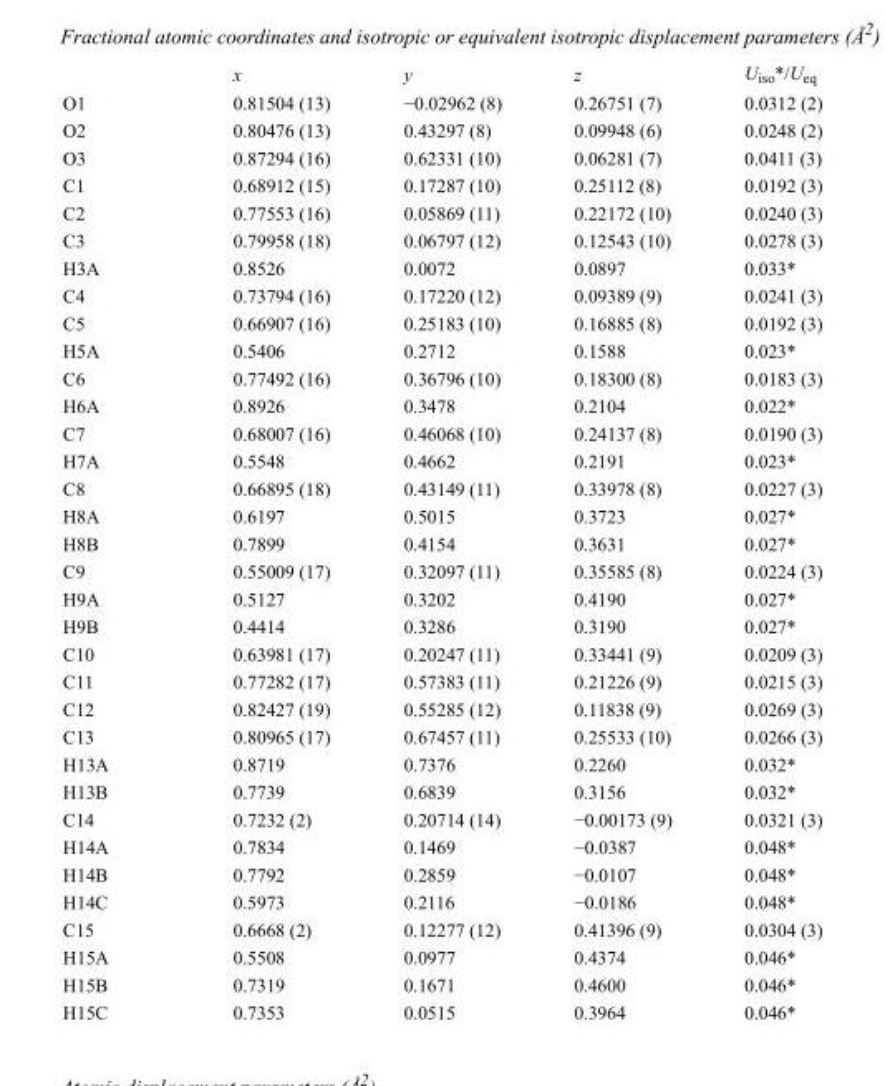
<table><thead><tr><td></td><td>x</td><td>y</td><td>z</td><td>U<sub>iso</sub>*/U<sub>eq</sub></td></tr></thead><tbody><tr><td>O1</td><td>0.81504 (13)</td><td>−0.02962 (8)</td><td>0.26751 (7)</td><td>0.0312 (2)</td></tr><tr><td>O2</td><td>0.80476 (13)</td><td>0.43297 (8)</td><td>0.09948 (6)</td><td>0.0248 (2)</td></tr><tr><td>O3</td><td>0.87294 (16)</td><td>0.62331 (10)</td><td>0.06281 (7)</td><td>0.0411 (3)</td></tr><tr><td>C1</td><td>0.68912 (15)</td><td>0.17287 (10)</td><td>0.25112 (8)</td><td>0.0192 (3)</td></tr><tr><td>C2</td><td>0.77553 (16)</td><td>0.05869 (11)</td><td>0.22172 (10)</td><td>0.0240 (3)</td></tr><tr><td>C3</td><td>0.79958 (18)</td><td>0.06797 (12)</td><td>0.12543 (10)</td><td>0.0278 (3)</td></tr><tr><td>H3A</td><td>0.8526</td><td>0.0072</td><td>0.0897</td><td>0.033*</td></tr><tr><td>C4</td><td>0.73794 (16)</td><td>0.17220 (12)</td><td>0.09389 (9)</td><td>0.0241 (3)</td></tr><tr><td>C5</td><td>0.66907 (16)</td><td>0.25183 (10)</td><td>0.16885 (8)</td><td>0.0192 (3)</td></tr><tr><td>H5A</td><td>0.5406</td><td>0.2712</td><td>0.1588</td><td>0.023*</td></tr><tr><td>C6</td><td>0.77492 (16)</td><td>0.36796 (10)</td><td>0.18300 (8)</td><td>0.0183 (3)</td></tr><tr><td>H6A</td><td>0.8926</td><td>0.3478</td><td>0.2104</td><td>0.022*</td></tr><tr><td>C7</td><td>0.68007 (16)</td><td>0.46068 (10)</td><td>0.24137 (8)</td><td>0.0190 (3)</td></tr><tr><td>H7A</td><td>0.5548</td><td>0.4662</td><td>0.2191</td><td>0.023*</td></tr><tr><td>C8</td><td>0.66895 (18)</td><td>0.43149 (11)</td><td>0.33978 (8)</td><td>0.0227 (3)</td></tr><tr><td>H8A</td><td>0.6197</td><td>0.5015</td><td>0.3723</td><td>0.027*</td></tr><tr><td>H8B</td><td>0.7899</td><td>0.4154</td><td>0.3631</td><td>0.027*</td></tr><tr><td>C9</td><td>0.55009 (17)</td><td>0.32097 (11)</td><td>0.35585 (8)</td><td>0.0224 (3)</td></tr><tr><td>H9A</td><td>0.5127</td><td>0.3202</td><td>0.4190</td><td>0.027*</td></tr><tr><td>H9B</td><td>0.4414</td><td>0.3286</td><td>0.3190</td><td>0.027*</td></tr><tr><td>C10</td><td>0.63981 (17)</td><td>0.20247 (11)</td><td>0.33441 (9)</td><td>0.0209 (3)</td></tr><tr><td>C11</td><td>0.77282 (17)</td><td>0.57383 (11)</td><td>0.21226 (9)</td><td>0.0215 (3)</td></tr><tr><td>C12</td><td>0.82427 (19)</td><td>0.55285 (12)</td><td>0.11838 (9)</td><td>0.0269 (3)</td></tr><tr><td>C13</td><td>0.80965 (17)</td><td>0.67457 (11)</td><td>0.25533 (10)</td><td>0.0266 (3)</td></tr><tr><td>H13A</td><td>0.8719</td><td>0.7376</td><td>0.2260</td><td>0.032*</td></tr><tr><td>H13B</td><td>0.7739</td><td>0.6839</td><td>0.3156</td><td>0.032*</td></tr><tr><td>C14</td><td>0.7232 (2)</td><td>0.20714 (14)</td><td>−0.00173 (9)</td><td>0.0321 (3)</td></tr><tr><td>H14A</td><td>0.7834</td><td>0.1469</td><td>−0.0387</td><td>0.048*</td></tr><tr><td>H14B</td><td>0.7792</td><td>0.2859</td><td>−0.0107</td><td>0.048*</td></tr><tr><td>H14C</td><td>0.5973</td><td>0.2116</td><td>−0.0186</td><td>0.048*</td></tr><tr><td>C15</td><td>0.6668 (2)</td><td>0.12277 (12)</td><td>0.41396 (9)</td><td>0.0304 (3)</td></tr><tr><td>H15A</td><td>0.5508</td><td>0.0977</td><td>0.4374</td><td>0.046*</td></tr><tr><td>H15B</td><td>0.7319</td><td>0.1671</td><td>0.4600</td><td>0.046*</td></tr><tr><td>H15C</td><td>0.7353</td><td>0.0515</td><td>0.3964</td><td>0.046*</td></tr></tbody></table>